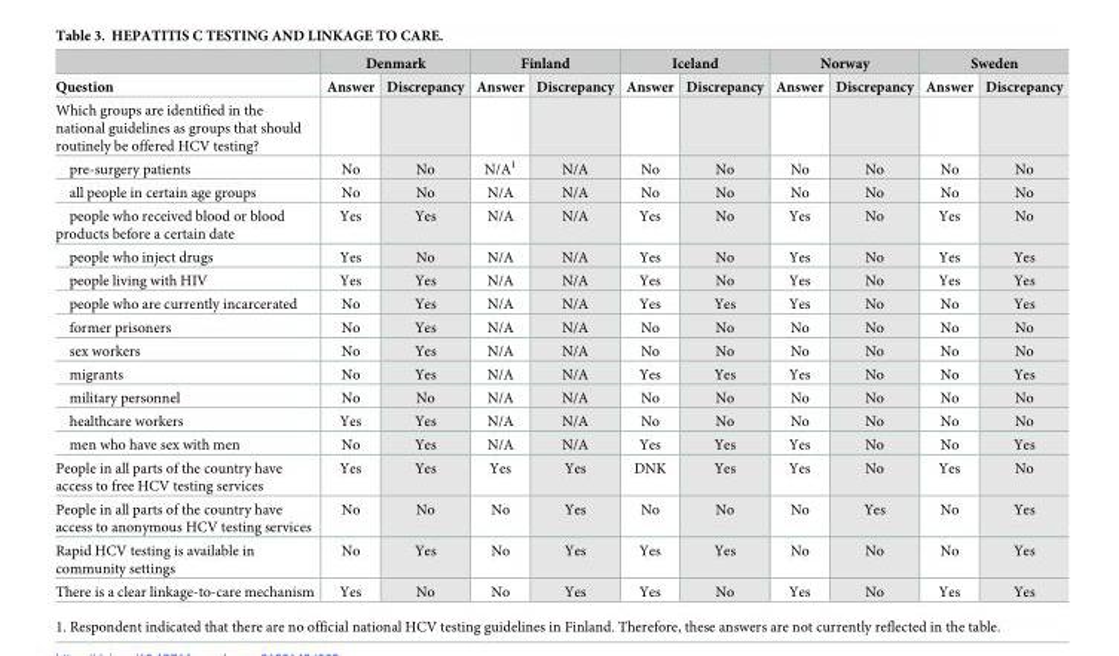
<table><thead><tr><td rowspan="2">Question</td><td colspan="2">Denmark</td><td colspan="2">Finland</td><td colspan="2">Iceland</td><td colspan="2">Norway</td><td colspan="2">Sweden</td></tr><tr><td>Answer</td><td>Discrepancy</td><td>Answer</td><td>Discrepancy</td><td>Answer</td><td>Discrepancy</td><td>Answer</td><td>Discrepancy</td><td>Answer</td><td>Discrepancy</td></tr></thead><tbody><tr><td colspan="11">Which groups are identified in the national guidelines as groups that should routinely be offered HCV testing?</td></tr><tr><td>pre-surgery patients</td><td>No</td><td>No</td><td>N/A<sup>1</sup></td><td>N/A</td><td>No</td><td>No</td><td>No</td><td>No</td><td>No</td><td>No</td></tr><tr><td>all people in certain age groups</td><td>No</td><td>No</td><td>N/A</td><td>N/A</td><td>No</td><td>No</td><td>No</td><td>No</td><td>No</td><td>No</td></tr><tr><td>people who received blood or blood products before a certain date</td><td>Yes</td><td>Yes</td><td>N/A</td><td>N/A</td><td>Yes</td><td>No</td><td>Yes</td><td>No</td><td>Yes</td><td>No</td></tr><tr><td>people who inject drugs</td><td>Yes</td><td>No</td><td>N/A</td><td>N/A</td><td>Yes</td><td>No</td><td>Yes</td><td>No</td><td>Yes</td><td>Yes</td></tr><tr><td>people living with HIV</td><td>Yes</td><td>Yes</td><td>N/A</td><td>N/A</td><td>Yes</td><td>No</td><td>Yes</td><td>No</td><td>Yes</td><td>Yes</td></tr><tr><td>people who are currently incarcerated</td><td>No</td><td>Yes</td><td>N/A</td><td>N/A</td><td>Yes</td><td>Yes</td><td>Yes</td><td>No</td><td>No</td><td>Yes</td></tr><tr><td>former prisoners</td><td>No</td><td>Yes</td><td>N/A</td><td>N/A</td><td>No</td><td>No</td><td>No</td><td>No</td><td>No</td><td>No</td></tr><tr><td>sex workers</td><td>No</td><td>Yes</td><td>N/A</td><td>N/A</td><td>No</td><td>No</td><td>No</td><td>No</td><td>No</td><td>No</td></tr><tr><td>migrants</td><td>No</td><td>Yes</td><td>N/A</td><td>N/A</td><td>Yes</td><td>Yes</td><td>Yes</td><td>No</td><td>No</td><td>Yes</td></tr><tr><td>military personnel</td><td>No</td><td>No</td><td>N/A</td><td>N/A</td><td>No</td><td>No</td><td>No</td><td>No</td><td>No</td><td>No</td></tr><tr><td>healthcare workers</td><td>Yes</td><td>Yes</td><td>N/A</td><td>N/A</td><td>No</td><td>No</td><td>No</td><td>No</td><td>No</td><td>No</td></tr><tr><td>men who have sex with men</td><td>No</td><td>Yes</td><td>N/A</td><td>N/A</td><td>Yes</td><td>Yes</td><td>Yes</td><td>No</td><td>No</td><td>Yes</td></tr><tr><td>People in all parts of the country have access to free HCV testing services</td><td>Yes</td><td>Yes</td><td>Yes</td><td>Yes</td><td>DNK</td><td>Yes</td><td>Yes</td><td>No</td><td>Yes</td><td>No</td></tr><tr><td>People in all parts of the country have access to anonymous HCV testing services</td><td>No</td><td>No</td><td>No</td><td>Yes</td><td>No</td><td>No</td><td>No</td><td>Yes</td><td>No</td><td>Yes</td></tr><tr><td>Rapid HCV testing is available in community settings</td><td>No</td><td>Yes</td><td>No</td><td>Yes</td><td>Yes</td><td>Yes</td><td>No</td><td>No</td><td>No</td><td>Yes</td></tr><tr><td>There is a clear linkage-to-care mechanism</td><td>Yes</td><td>No</td><td>No</td><td>Yes</td><td>Yes</td><td>No</td><td>Yes</td><td>No</td><td>Yes</td><td>Yes</td></tr></tbody></table>